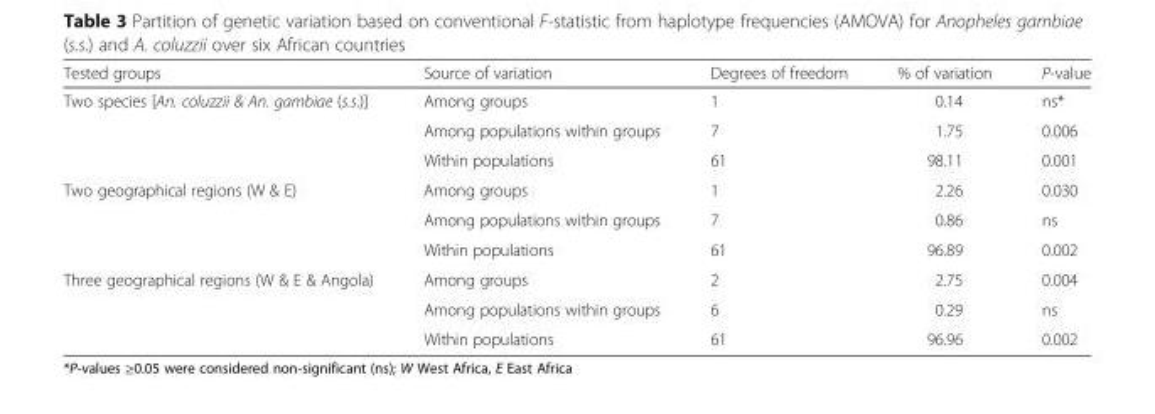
<table><thead><tr><td>Tested groups</td><td>Source of variation</td><td>Degrees of freedom</td><td>% of variation</td><td>P-value</td></tr></thead><tbody><tr><td rowspan="3">Two species [An. coluzzii &amp; An. gambiae (s.s.)]</td><td>Among groups</td><td>1</td><td>0.14</td><td>ns*</td></tr><tr><td>Among populations within groups</td><td>7</td><td>1.75</td><td>0.006</td></tr><tr><td>Within populations</td><td>61</td><td>98.11</td><td>0.001</td></tr><tr><td rowspan="3">Two geographical regions (W &amp; E)</td><td>Among groups</td><td>1</td><td>2.26</td><td>0.030</td></tr><tr><td>Among populations within groups</td><td>7</td><td>0.86</td><td>ns</td></tr><tr><td>Within populations</td><td>61</td><td>96.89</td><td>0.002</td></tr><tr><td rowspan="3">Three geographical regions (W &amp; E &amp; Angola)</td><td>Among groups</td><td>2</td><td>2.75</td><td>0.004</td></tr><tr><td>Among populations within groups</td><td>6</td><td>0.29</td><td>ns</td></tr><tr><td>Within populations</td><td>61</td><td>96.96</td><td>0.002</td></tr></tbody></table>